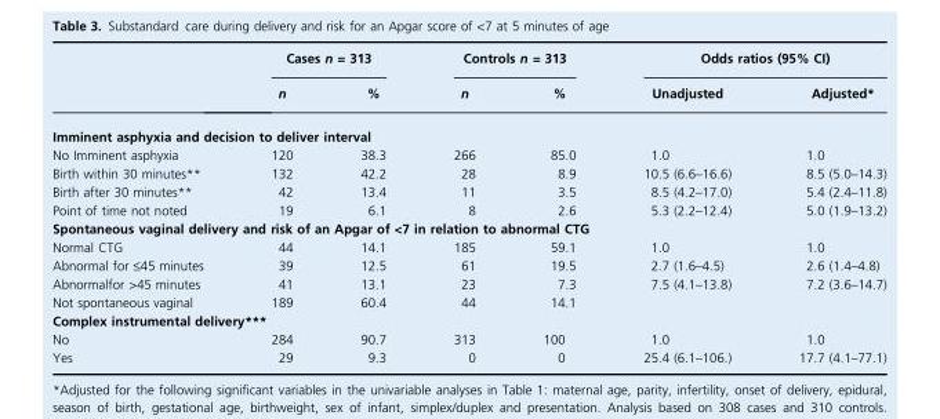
<table><thead><tr><td rowspan="2"></td><td colspan="2">Cases n = 313</td><td colspan="2">Controls n = 313</td><td colspan="2">Odds ratios (95% CI)</td></tr><tr><td>n</td><td>%</td><td>n</td><td>%</td><td>Unadjusted</td><td>Adjusted*</td></tr></thead><tbody><tr><td colspan="7">Imminent asphyxia and decision to deliver interval</td></tr><tr><td>No Imminent asphyxia</td><td>120</td><td>38.3</td><td>266</td><td>85.0</td><td>1.0</td><td>1.0</td></tr><tr><td>Birth within 30 minutes**</td><td>132</td><td>42.2</td><td>28</td><td>8.9</td><td>10.5 (6.6–16.6)</td><td>8.5 (5.0–14.3)</td></tr><tr><td>Birth after 30 minutes**</td><td>42</td><td>13.4</td><td>11</td><td>3.5</td><td>8.5 (4.2–17.0)</td><td>5.4 (2.4–11.8)</td></tr><tr><td>Point of time not noted</td><td>19</td><td>6.1</td><td>8</td><td>2.6</td><td>5.3 (2.2–12.4)</td><td>5.0 (1.9–13.2)</td></tr><tr><td colspan="7">Spontaneous vaginal delivery and risk of an Apgar of &lt;7 in relation to abnormal CTG</td></tr><tr><td>Normal CTG</td><td>44</td><td>14.1</td><td>185</td><td>59.1</td><td>1.0</td><td>1.0</td></tr><tr><td>Abnormal for ≤45 minutes</td><td>39</td><td>12.5</td><td>61</td><td>19.5</td><td>2.7 (1.6–4.5)</td><td>2.6 (1.4–4.8)</td></tr><tr><td>Abnormalfor &gt;45 minutes</td><td>41</td><td>13.1</td><td>23</td><td>7.3</td><td>7.5 (4.1–13.8)</td><td>7.2 (3.6–14.7)</td></tr><tr><td>Not spontaneous vaginal</td><td>189</td><td>60.4</td><td>44</td><td>14.1</td><td></td><td></td></tr><tr><td colspan="7">Complex instrumental delivery***</td></tr><tr><td>No</td><td>284</td><td>90.7</td><td>313</td><td>100</td><td>1.0</td><td>1.0</td></tr><tr><td>Yes</td><td>29</td><td>9.3</td><td>0</td><td>0</td><td>25.4 (6.1–106.)</td><td>17.7 (4.1–77.1)</td></tr></tbody></table>